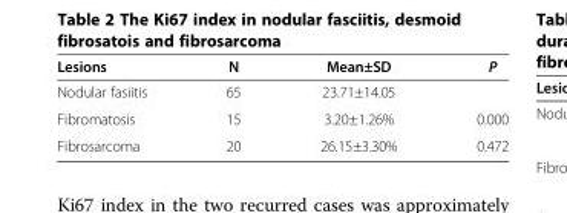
<table><thead><tr><td>Lesions</td><td>N</td><td>Mean±SD</td><td>P</td></tr></thead><tbody><tr><td>Nodular fasiitis</td><td>65</td><td>23.71±14.05</td><td></td></tr><tr><td>Fibromatosis</td><td>15</td><td>3.20±1.26%</td><td>0.000</td></tr><tr><td>Fibrosarcoma</td><td>20</td><td>26.15±3.30%</td><td>0.472</td></tr></tbody></table>